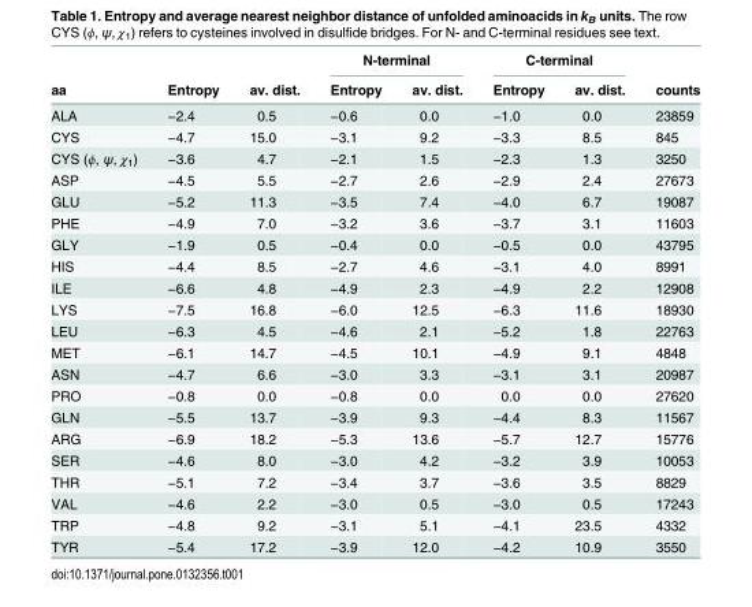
<table><thead><tr><td rowspan="2">aa</td><td rowspan="2">Entropy</td><td rowspan="2">av. dist.</td><td colspan="2">N-terminal</td><td colspan="2">C-terminal</td><td rowspan="2">counts</td></tr><tr><td>Entropy</td><td>av. dist.</td><td>Entropy</td><td>av. dist.</td></tr></thead><tbody><tr><td>ALA</td><td>−2.4</td><td>0.5</td><td>−0.6</td><td>0.0</td><td>−1.0</td><td>0.0</td><td>23859</td></tr><tr><td>CYS</td><td>−4.7</td><td>15.0</td><td>−3.1</td><td>9.2</td><td>−3.3</td><td>8.5</td><td>845</td></tr><tr><td>CYS (ϕ, ψ, χ<sub>1</sub>)</td><td>−3.6</td><td>4.7</td><td>−2.1</td><td>1.5</td><td>−2.3</td><td>1.3</td><td>3250</td></tr><tr><td>ASP</td><td>−4.5</td><td>5.5</td><td>−2.7</td><td>2.6</td><td>−2.9</td><td>2.4</td><td>27673</td></tr><tr><td>GLU</td><td>−5.2</td><td>11.3</td><td>−3.5</td><td>7.4</td><td>−4.0</td><td>6.7</td><td>19087</td></tr><tr><td>PHE</td><td>−4.9</td><td>7.0</td><td>−3.2</td><td>3.6</td><td>−3.7</td><td>3.1</td><td>11603</td></tr><tr><td>GLY</td><td>−1.9</td><td>0.5</td><td>−0.4</td><td>0.0</td><td>−0.5</td><td>0.0</td><td>43795</td></tr><tr><td>HIS</td><td>−4.4</td><td>8.5</td><td>−2.7</td><td>4.6</td><td>−3.1</td><td>4.0</td><td>8991</td></tr><tr><td>ILE</td><td>−6.6</td><td>4.8</td><td>−4.9</td><td>2.3</td><td>−4.9</td><td>2.2</td><td>12908</td></tr><tr><td>LYS</td><td>−7.5</td><td>16.8</td><td>−6.0</td><td>12.5</td><td>−6.3</td><td>11.6</td><td>18930</td></tr><tr><td>LEU</td><td>−6.3</td><td>4.5</td><td>−4.6</td><td>2.1</td><td>−5.2</td><td>1.8</td><td>22763</td></tr><tr><td>MET</td><td>−6.1</td><td>14.7</td><td>−4.5</td><td>10.1</td><td>−4.9</td><td>9.1</td><td>4848</td></tr><tr><td>ASN</td><td>−4.7</td><td>6.6</td><td>−3.0</td><td>3.3</td><td>−3.1</td><td>3.1</td><td>20987</td></tr><tr><td>PRO</td><td>−0.8</td><td>0.0</td><td>−0.8</td><td>0.0</td><td>0.0</td><td>0.0</td><td>27620</td></tr><tr><td>GLN</td><td>−5.5</td><td>13.7</td><td>−3.9</td><td>9.3</td><td>−4.4</td><td>8.3</td><td>11567</td></tr><tr><td>ARG</td><td>−6.9</td><td>18.2</td><td>−5.3</td><td>13.6</td><td>−5.7</td><td>12.7</td><td>15776</td></tr><tr><td>SER</td><td>−4.6</td><td>8.0</td><td>−3.0</td><td>4.2</td><td>−3.2</td><td>3.9</td><td>10053</td></tr><tr><td>THR</td><td>−5.1</td><td>7.2</td><td>−3.4</td><td>3.7</td><td>−3.6</td><td>3.5</td><td>8829</td></tr><tr><td>VAL</td><td>−4.6</td><td>2.2</td><td>−3.0</td><td>0.5</td><td>−3.0</td><td>0.5</td><td>17243</td></tr><tr><td>TRP</td><td>−4.8</td><td>9.2</td><td>−3.1</td><td>5.1</td><td>−4.1</td><td>23.5</td><td>4332</td></tr><tr><td>TYR</td><td>−5.4</td><td>17.2</td><td>−3.9</td><td>12.0</td><td>−4.2</td><td>10.9</td><td>3550</td></tr></tbody></table>